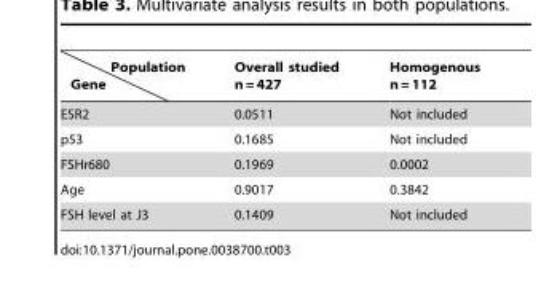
<table><thead><tr><td>Population Gene</td><td>Overall studied n = 427</td><td>Homogenous n = 112</td></tr></thead><tbody><tr><td>ESR2</td><td>0.0511</td><td>Not included</td></tr><tr><td>p53</td><td>0.1685</td><td>Not included</td></tr><tr><td>FSHr680</td><td>0.1969</td><td>0.0002</td></tr><tr><td>Age</td><td>0.9017</td><td>0.3842</td></tr><tr><td>FSH level at J3</td><td>0.1409</td><td>Not included</td></tr></tbody></table>